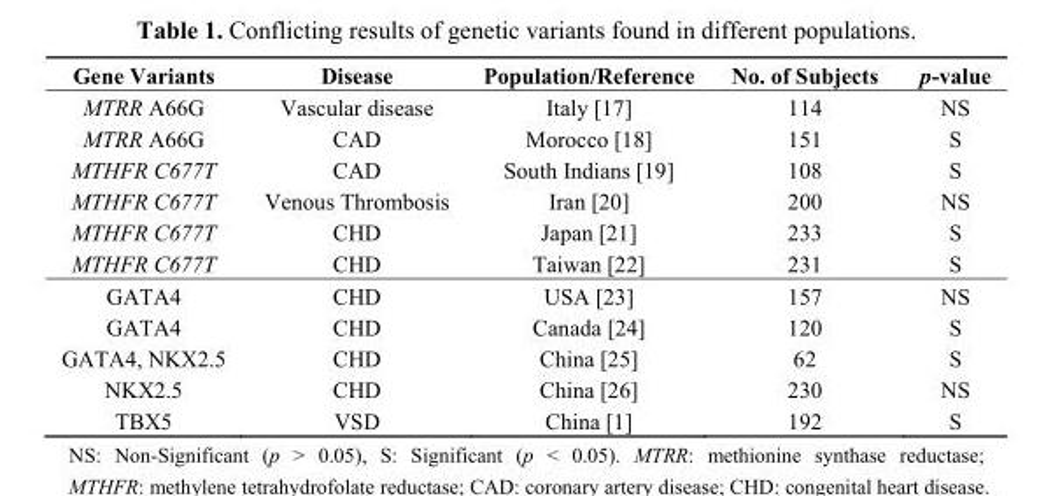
<table><thead><tr><td>Gene Variants</td><td>Disease</td><td>Population/Reference</td><td>No. of Subjects</td><td>p-value</td></tr></thead><tbody><tr><td>MTRR A66G</td><td>Vascular disease</td><td>Italy [17]</td><td>114</td><td>NS</td></tr><tr><td>MTRR A66G</td><td>CAD</td><td>Morocco [18]</td><td>151</td><td>S</td></tr><tr><td>MTHFR C677T</td><td>CAD</td><td>South Indians [19]</td><td>108</td><td>S</td></tr><tr><td>MTHFR C677T</td><td>Venous Thrombosis</td><td>Iran [20]</td><td>200</td><td>NS</td></tr><tr><td>MTHFR C677T</td><td>CHD</td><td>Japan [21]</td><td>233</td><td>S</td></tr><tr><td>MTHFR C677T</td><td>CHD</td><td>Taiwan [22]</td><td>231</td><td>S</td></tr><tr><td>GATA4</td><td>CHD</td><td>USA [23]</td><td>157</td><td>NS</td></tr><tr><td>GATA4</td><td>CHD</td><td>Canada [24]</td><td>120</td><td>S</td></tr><tr><td>GATA4, NKX2.5</td><td>CHD</td><td>China [25]</td><td>62</td><td>S</td></tr><tr><td>NKX2.5</td><td>CHD</td><td>China [26]</td><td>230</td><td>NS</td></tr><tr><td>TBX5</td><td>VSD</td><td>China [1]</td><td>192</td><td>S</td></tr></tbody></table>